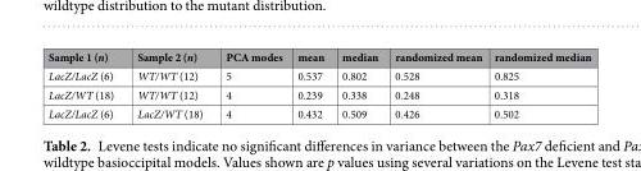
<table><thead><tr><td>Sample 1 (n)</td><td>Sample 2 (n)</td><td>PCA modes</td><td>mean</td><td>median</td><td>randomized mean</td><td>randomized median</td></tr></thead><tbody><tr><td>LacZ/LacZ (6)</td><td>WT/WT (12)</td><td>5</td><td>0.537</td><td>0.802</td><td>0.528</td><td>0.825</td></tr><tr><td>LacZ/WT (18)</td><td>WT/WT (12)</td><td>4</td><td>0.239</td><td>0.338</td><td>0.248</td><td>0.318</td></tr><tr><td>LacZ/LacZ (6)</td><td>LacZ/WT (18)</td><td>4</td><td>0.432</td><td>0.509</td><td>0.426</td><td>0.502</td></tr></tbody></table>